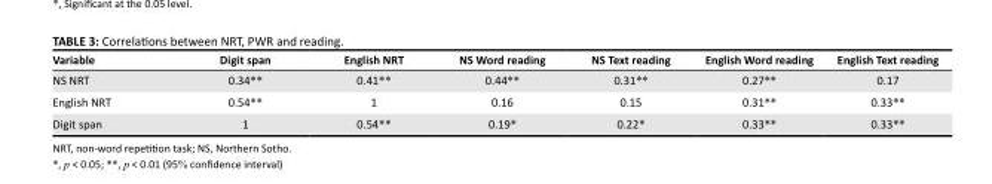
<table><thead><tr><td>Variable</td><td>Digit span</td><td>English NRT</td><td>NS Word reading</td><td>NS Text reading</td><td>English Word reading</td><td>English Text reading</td></tr></thead><tbody><tr><td>NS NRT</td><td>0.34**</td><td>0.41**</td><td>0.44**</td><td>0.31**</td><td>0.27**</td><td>0.17</td></tr><tr><td>English NRT</td><td>0.54**</td><td>1</td><td>0.16</td><td>0.15</td><td>0.31**</td><td>0.33**</td></tr><tr><td>Digit span</td><td>1</td><td>0.54**</td><td>0.19*</td><td>0.22*</td><td>0.33**</td><td>0.33**</td></tr></tbody></table>